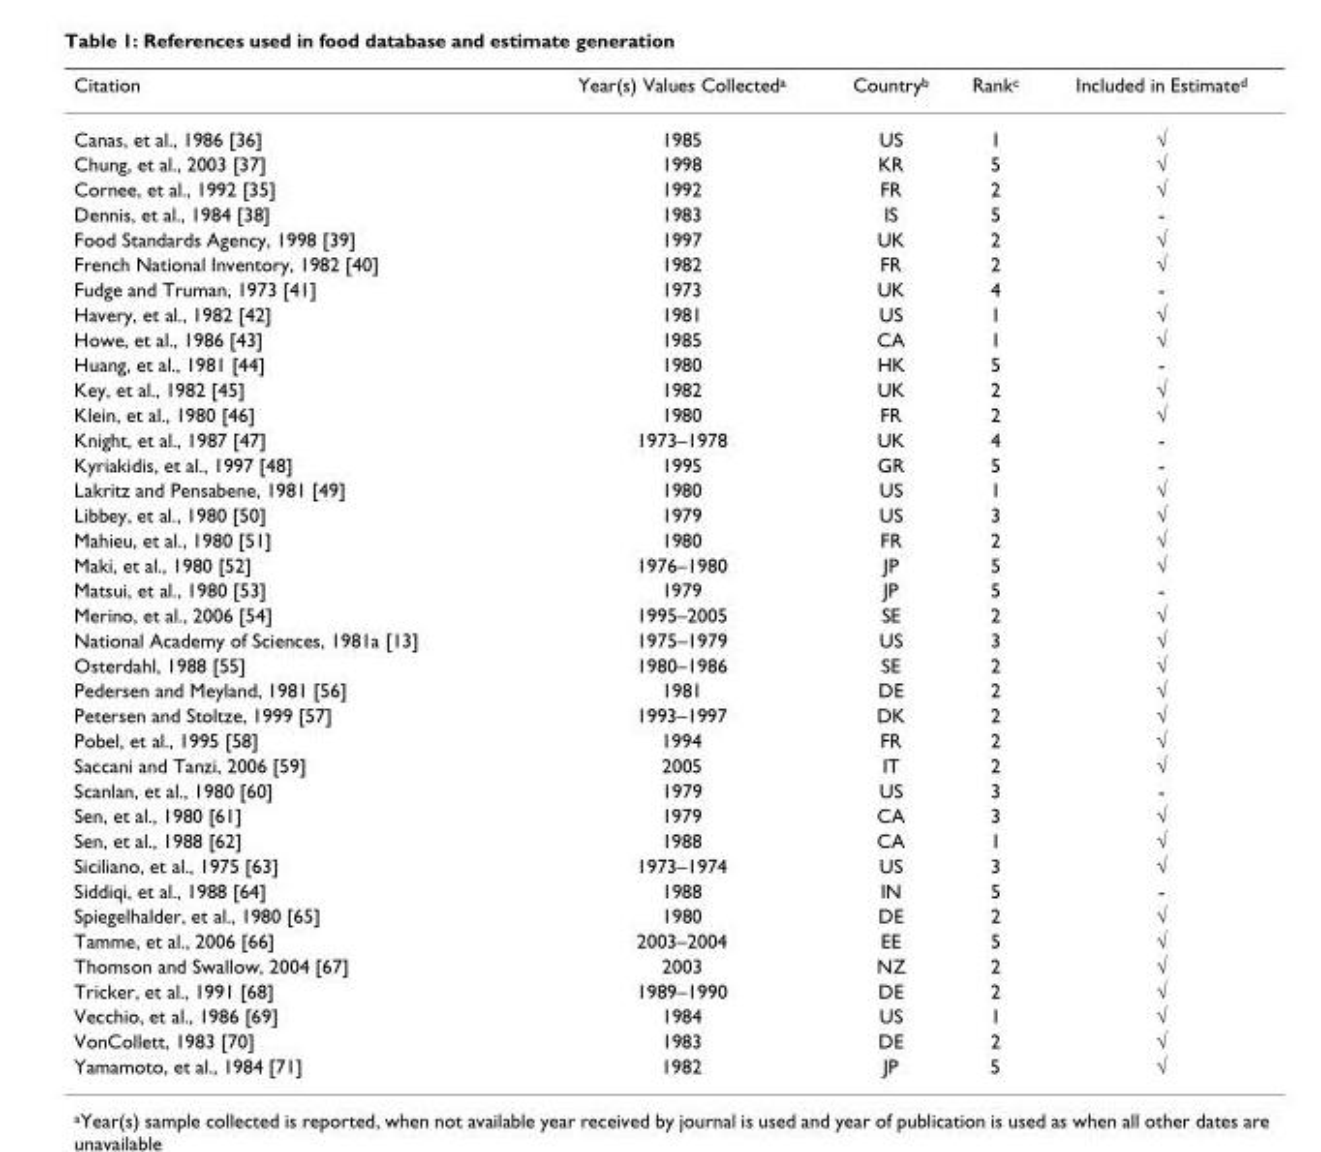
<table><thead><tr><td>Citation</td><td>Year(s) Values Collected<sup>a</sup></td><td>Country<sup>b</sup></td><td>Rank<sup>c</sup></td><td>Included in Estimate<sup>d</sup></td></tr></thead><tbody><tr><td>Canas, et al., 1986 [36]</td><td>1985</td><td>US</td><td>1</td><td>√</td></tr><tr><td>Chung, et al., 2003 [37]</td><td>1998</td><td>KR</td><td>5</td><td>√</td></tr><tr><td>Cornee, et al., 1992 [35]</td><td>1992</td><td>FR</td><td>2</td><td>√</td></tr><tr><td>Dennis, et al., 1984 [38]</td><td>1983</td><td>IS</td><td>5</td><td>-</td></tr><tr><td>Food Standards Agency, 1998 [39]</td><td>1997</td><td>UK</td><td>2</td><td>√</td></tr><tr><td>French National Inventory, 1982 [40]</td><td>1982</td><td>FR</td><td>2</td><td>√</td></tr><tr><td>Fudge and Truman, 1973 [41]</td><td>1973</td><td>UK</td><td>4</td><td>-</td></tr><tr><td>Havery, et al., 1982 [42]</td><td>1981</td><td>US</td><td>1</td><td>√</td></tr><tr><td>Howe, et al., 1986 [43]</td><td>1985</td><td>CA</td><td>1</td><td>√</td></tr><tr><td>Huang, et al., 1981 [44]</td><td>1980</td><td>HK</td><td>5</td><td>-</td></tr><tr><td>Key, et al., 1982 [45]</td><td>1982</td><td>UK</td><td>2</td><td>√</td></tr><tr><td>Klein, et al., 1980 [46]</td><td>1980</td><td>FR</td><td>2</td><td>√</td></tr><tr><td>Knight, et al., 1987 [47]</td><td>1973–1978</td><td>UK</td><td>4</td><td>-</td></tr><tr><td>Kyriakidis, et al., 1997 [48]</td><td>1995</td><td>GR</td><td>5</td><td>-</td></tr><tr><td>Lakritz and Pensabene, 1981 [49]</td><td>1980</td><td>US</td><td>1</td><td>√</td></tr><tr><td>Libbey, et al., 1980 [50]</td><td>1979</td><td>US</td><td>3</td><td>√</td></tr><tr><td>Mahieu, et al., 1980 [51]</td><td>1980</td><td>FR</td><td>2</td><td>√</td></tr><tr><td>Maki, et al., 1980 [52]</td><td>1976–1980</td><td>JP</td><td>5</td><td>√</td></tr><tr><td>Matsui, et al., 1980 [53]</td><td>1979</td><td>JP</td><td>5</td><td>-</td></tr><tr><td>Merino, et al., 2006 [54]</td><td>1995–2005</td><td>SE</td><td>2</td><td>√</td></tr><tr><td>National Academy of Sciences, 1981a [13]</td><td>1975–1979</td><td>US</td><td>3</td><td>√</td></tr><tr><td>Osterdahl, 1988 [55]</td><td>1980–1986</td><td>SE</td><td>2</td><td>√</td></tr><tr><td>Pedersen and Meyland, 1981 [56]</td><td>1981</td><td>DE</td><td>2</td><td>√</td></tr><tr><td>Petersen and Stoltze, 1999 [57]</td><td>1993–1997</td><td>DK</td><td>2</td><td>√</td></tr><tr><td>Pobel, et al., 1995 [58]</td><td>1994</td><td>FR</td><td>2</td><td>√</td></tr><tr><td>Saccani and Tanzi, 2006 [59]</td><td>2005</td><td>IT</td><td>2</td><td>√</td></tr><tr><td>Scanlan, et al., 1980 [60]</td><td>1979</td><td>US</td><td>3</td><td>-</td></tr><tr><td>Sen, et al., 1980 [61]</td><td>1979</td><td>CA</td><td>3</td><td>√</td></tr><tr><td>Sen, et al., 1988 [62]</td><td>1988</td><td>CA</td><td>1</td><td>√</td></tr><tr><td>Siciliano, et al., 1975 [63]</td><td>1973–1974</td><td>US</td><td>3</td><td>√</td></tr><tr><td>Siddiqi, et al., 1988 [64]</td><td>1988</td><td>IN</td><td>5</td><td>-</td></tr><tr><td>Spiegelhalder, et al., 1980 [65]</td><td>1980</td><td>DE</td><td>2</td><td>√</td></tr><tr><td>Tamme, et al., 2006 [66]</td><td>2003–2004</td><td>EE</td><td>5</td><td>√</td></tr><tr><td>Thomson and Swallow, 2004 [67]</td><td>2003</td><td>NZ</td><td>2</td><td>√</td></tr><tr><td>Tricker, et al., 1991 [68]</td><td>1989–1990</td><td>DE</td><td>2</td><td>√</td></tr><tr><td>Vecchio, et al., 1986 [69]</td><td>1984</td><td>US</td><td>1</td><td>√</td></tr><tr><td>VonCollett, 1983 [70]</td><td>1983</td><td>DE</td><td>2</td><td>√</td></tr><tr><td>Yamamoto, et al., 1984 [71]</td><td>1982</td><td>JP</td><td>5</td><td>√</td></tr></tbody></table>